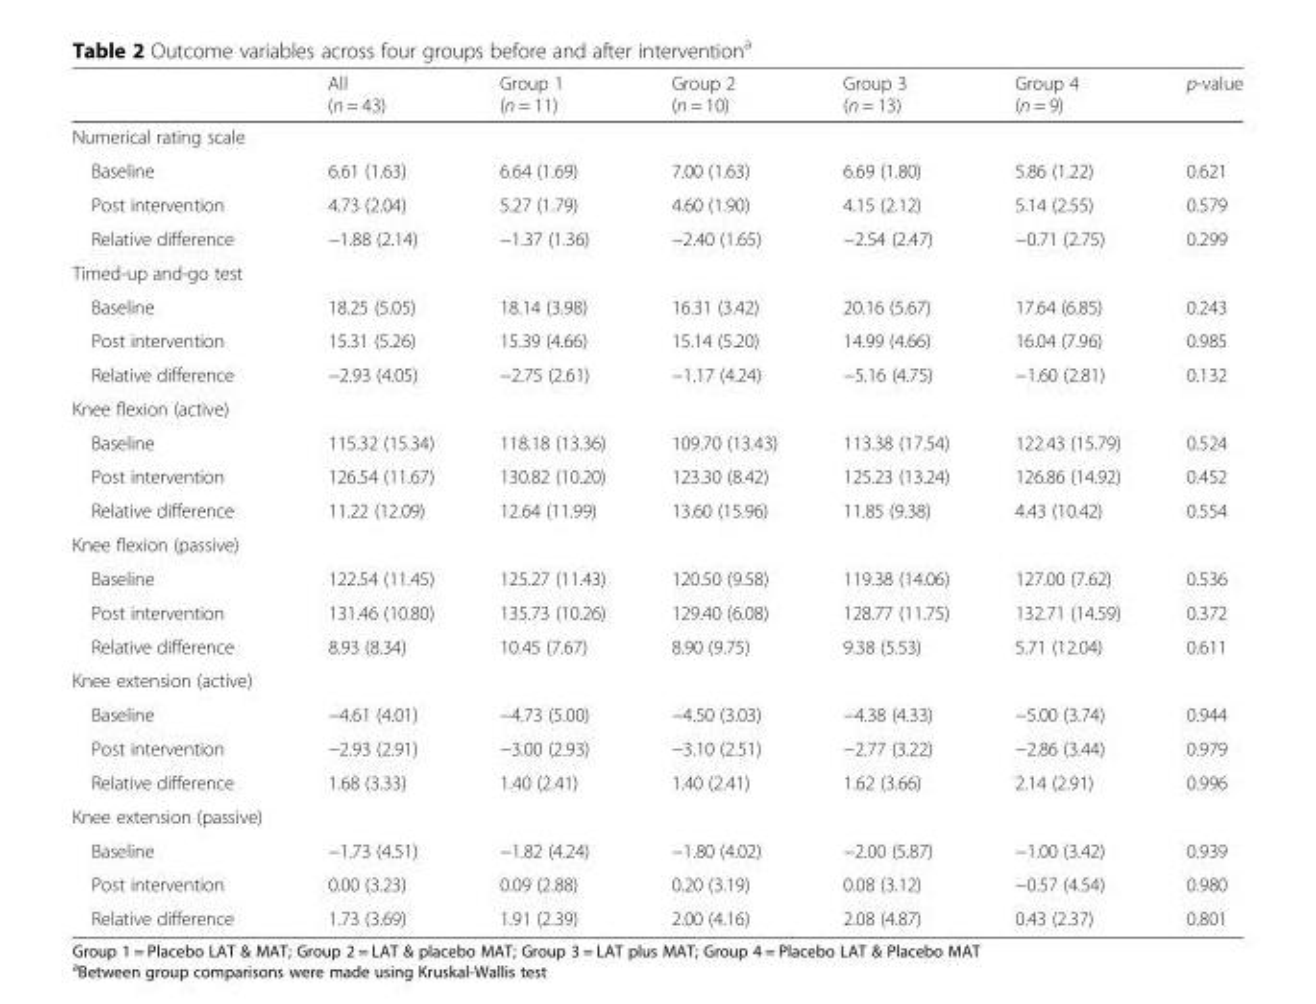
<table><thead><tr><td></td><td>All (n = 43)</td><td>Group 1 (n = 11)</td><td>Group 2 (n = 10)</td><td>Group 3 (n = 13)</td><td>Group 4 (n = 9)</td><td>p-value</td></tr></thead><tbody><tr><td colspan="7">Numerical rating scale</td></tr><tr><td>Baseline</td><td>6.61 (1.63)</td><td>6.64 (1.69)</td><td>7.00 (1.63)</td><td>6.69 (1.80)</td><td>5.86 (1.22)</td><td>0.621</td></tr><tr><td>Post intervention</td><td>4.73 (2.04)</td><td>5.27 (1.79)</td><td>4.60 (1.90)</td><td>4.15 (2.12)</td><td>5.14 (2.55)</td><td>0.579</td></tr><tr><td>Relative difference</td><td>−1.88 (2.14)</td><td>−1.37 (1.36)</td><td>−2.40 (1.65)</td><td>−2.54 (2.47)</td><td>−0.71 (2.75)</td><td>0.299</td></tr><tr><td colspan="7">Timed-up and-go test</td></tr><tr><td>Baseline</td><td>18.25 (5.05)</td><td>18.14 (3.98)</td><td>16.31 (3.42)</td><td>20.16 (5.67)</td><td>17.64 (6.85)</td><td>0.243</td></tr><tr><td>Post intervention</td><td>15.31 (5.26)</td><td>15.39 (4.66)</td><td>15.14 (5.20)</td><td>14.99 (4.66)</td><td>16.04 (7.96)</td><td>0.985</td></tr><tr><td>Relative difference</td><td>−2.93 (4.05)</td><td>−2.75 (2.61)</td><td>−1.17 (4.24)</td><td>−5.16 (4.75)</td><td>−1.60 (2.81)</td><td>0.132</td></tr><tr><td colspan="7">Knee flexion (active)</td></tr><tr><td>Baseline</td><td>115.32 (15.34)</td><td>118.18 (13.36)</td><td>109.70 (13.43)</td><td>113.38 (17.54)</td><td>122.43 (15.79)</td><td>0.524</td></tr><tr><td>Post intervention</td><td>126.54 (11.67)</td><td>130.82 (10.20)</td><td>123.30 (8.42)</td><td>125.23 (13.24)</td><td>126.86 (14.92)</td><td>0.452</td></tr><tr><td>Relative difference</td><td>11.22 (12.09)</td><td>12.64 (11.99)</td><td>13.60 (15.96)</td><td>11.85 (9.38)</td><td>4.43 (10.42)</td><td>0.554</td></tr><tr><td colspan="7">Knee flexion (passive)</td></tr><tr><td>Baseline</td><td>122.54 (11.45)</td><td>125.27 (11.43)</td><td>120.50 (9.58)</td><td>119.38 (14.06)</td><td>127.00 (7.62)</td><td>0.536</td></tr><tr><td>Post intervention</td><td>131.46 (10.80)</td><td>135.73 (10.26)</td><td>129.40 (6.08)</td><td>128.77 (11.75)</td><td>132.71 (14.59)</td><td>0.372</td></tr><tr><td>Relative difference</td><td>8.93 (8.34)</td><td>10.45 (7.67)</td><td>8.90 (9.75)</td><td>9.38 (5.53)</td><td>5.71 (12.04)</td><td>0.611</td></tr><tr><td colspan="7">Knee extension (active)</td></tr><tr><td>Baseline</td><td>−4.61 (4.01)</td><td>−4.73 (5.00)</td><td>−4.50 (3.03)</td><td>−4.38 (4.33)</td><td>−5.00 (3.74)</td><td>0.944</td></tr><tr><td>Post intervention</td><td>−2.93 (2.91)</td><td>−3.00 (2.93)</td><td>−3.10 (2.51)</td><td>−2.77 (3.22)</td><td>−2.86 (3.44)</td><td>0.979</td></tr><tr><td>Relative difference</td><td>1.68 (3.33)</td><td>1.40 (2.41)</td><td>1.40 (2.41)</td><td>1.62 (3.66)</td><td>2.14 (2.91)</td><td>0.996</td></tr><tr><td colspan="7">Knee extension (passive)</td></tr><tr><td>Baseline</td><td>−1.73 (4.51)</td><td>−1.82 (4.24)</td><td>−1.80 (4.02)</td><td>−2.00 (5.87)</td><td>−1.00 (3.42)</td><td>0.939</td></tr><tr><td>Post intervention</td><td>0.00 (3.23)</td><td>0.09 (2.88)</td><td>0.20 (3.19)</td><td>0.08 (3.12)</td><td>−0.57 (4.54)</td><td>0.980</td></tr><tr><td>Relative difference</td><td>1.73 (3.69)</td><td>1.91 (2.39)</td><td>2.00 (4.16)</td><td>2.08 (4.87)</td><td>0.43 (2.37)</td><td>0.801</td></tr></tbody></table>